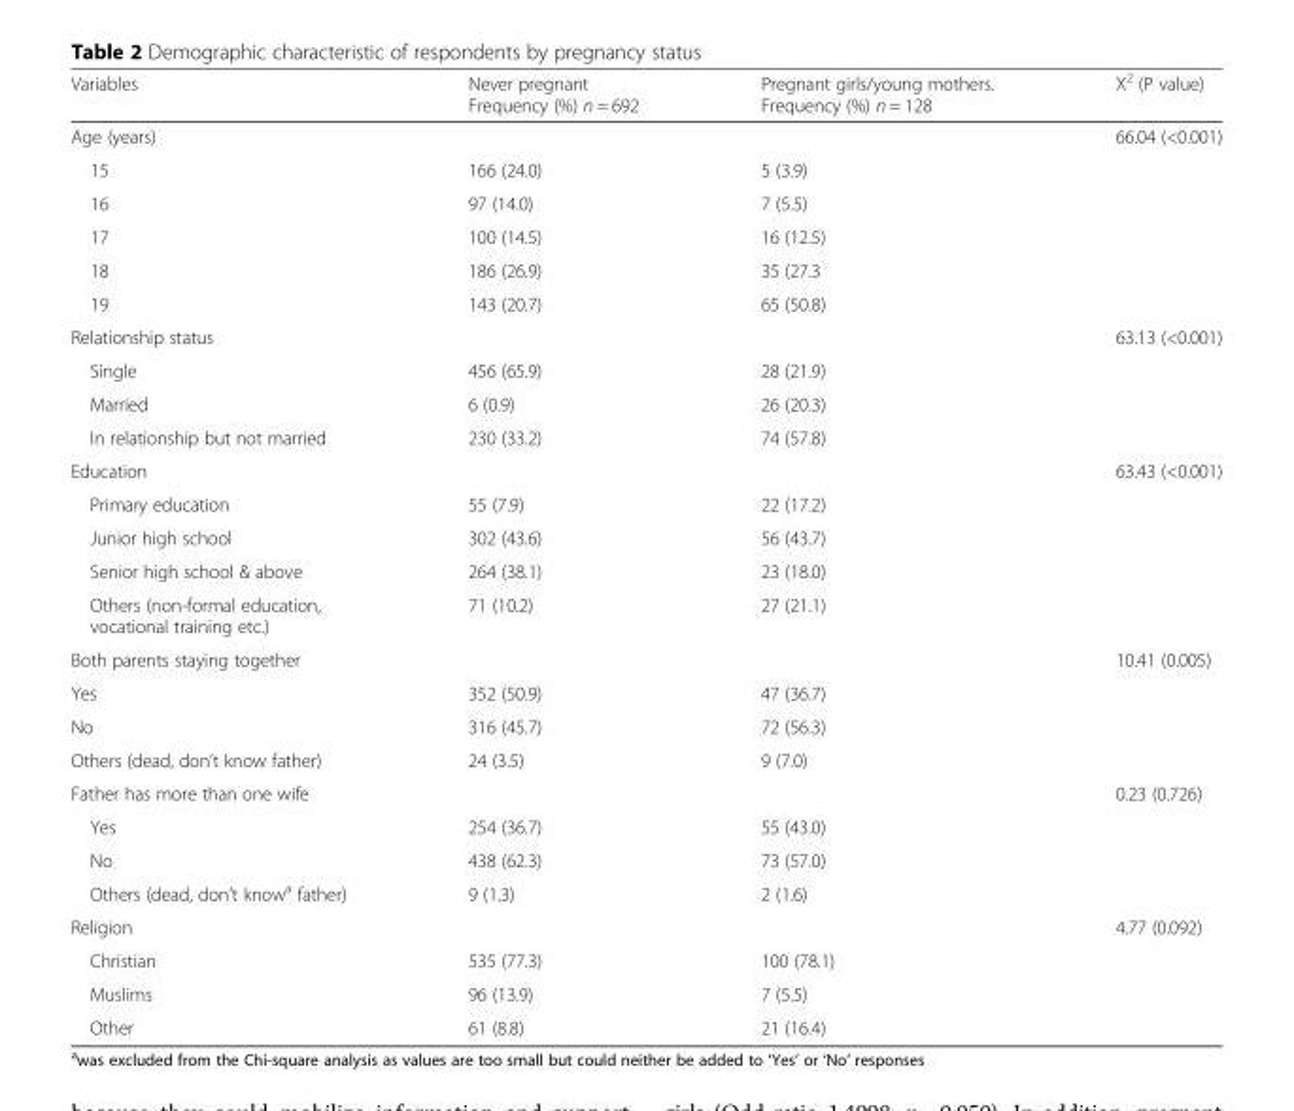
<table><thead><tr><td>Variables</td><td>Never pregnant Frequency (%) n = 692</td><td>Pregnant girls/young mothers. Frequency (%) n = 128</td><td>X<sup>2</sup> (P value)</td></tr></thead><tbody><tr><td colspan="3">Age (years)</td><td rowspan="6">66.04 (&lt;0.001)</td></tr><tr><td>15</td><td>166 (24.0)</td><td>5 (3.9)</td></tr><tr><td>16</td><td>97 (14.0)</td><td>7 (5.5)</td></tr><tr><td>17</td><td>100 (14.5)</td><td>16 (12.5)</td></tr><tr><td>18</td><td>186 (26.9)</td><td>35 (27.3</td></tr><tr><td>19</td><td>143 (20.7)</td><td>65 (50.8)</td></tr><tr><td colspan="3">Relationship status</td><td rowspan="4">63.13 (&lt;0.001)</td></tr><tr><td>Single</td><td>456 (65.9)</td><td>28 (21.9)</td></tr><tr><td>Married</td><td>6 (0.9)</td><td>26 (20.3)</td></tr><tr><td>In relationship but not married</td><td>230 (33.2)</td><td>74 (57.8)</td></tr><tr><td colspan="3">Education</td><td rowspan="5">63.43 (&lt;0.001)</td></tr><tr><td>Primary education</td><td>55 (7.9)</td><td>22 (17.2)</td></tr><tr><td>Junior high school</td><td>302 (43.6)</td><td>56 (43.7)</td></tr><tr><td>Senior high school &amp; above</td><td>264 (38.1)</td><td>23 (18.0)</td></tr><tr><td>Others (non-formal education, vocational training etc.)</td><td>71 (10.2)</td><td>27 (21.1)</td></tr><tr><td colspan="3">Both parents staying together</td><td rowspan="4">10.41 (0.005)</td></tr><tr><td>Yes</td><td>352 (50.9)</td><td>47 (36.7)</td></tr><tr><td>No</td><td>316 (45.7)</td><td>72 (56.3)</td></tr><tr><td>Others (dead, don’t know father)</td><td>24 (3.5)</td><td>9 (7.0)</td></tr><tr><td colspan="3">Father has more than one wife</td><td rowspan="4">0.23 (0.726)</td></tr><tr><td>Yes</td><td>254 (36.7)</td><td>55 (43.0)</td></tr><tr><td>No</td><td>438 (62.3)</td><td>73 (57.0)</td></tr><tr><td>Others (dead, don’t know<sup>a</sup> father)</td><td>9 (1.3)</td><td>2 (1.6)</td></tr><tr><td colspan="3">Religion</td><td rowspan="4">4.77 (0.092)</td></tr><tr><td>Christian</td><td>535 (77.3)</td><td>100 (78.1)</td></tr><tr><td>Muslims</td><td>96 (13.9)</td><td>7 (5.5)</td></tr><tr><td>Other</td><td>61 (8.8)</td><td>21 (16.4)</td></tr></tbody></table>